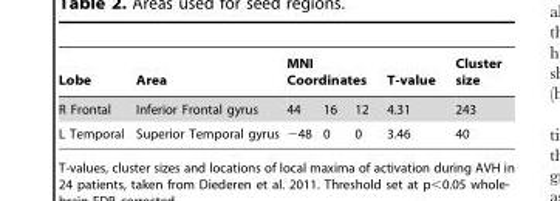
<table><thead><tr><td rowspan="2">Lobe R Frontal</td><td rowspan="2">Area Inferior Frontal gyrus</td><td colspan="3">MNI Coordinates</td><td rowspan="2">T-value 4.31</td><td rowspan="2">Cluster size 243</td></tr><tr><td>44</td><td>16</td><td>12</td></tr></thead><tbody><tr><td>L Temporal</td><td>Superior Temporal gyrus</td><td>−48</td><td>0</td><td>0</td><td>3.46</td><td>40</td></tr></tbody></table>